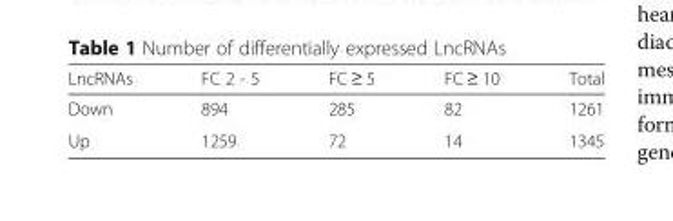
<table><thead><tr><td>LncRNAs</td><td>FC 2 - 5</td><td>FC ≥ 5</td><td>FC ≥ 10</td><td>Total</td></tr></thead><tbody><tr><td>Down</td><td>894</td><td>285</td><td>82</td><td>1261</td></tr><tr><td>Up</td><td>1259</td><td>72</td><td>14</td><td>1345</td></tr></tbody></table>